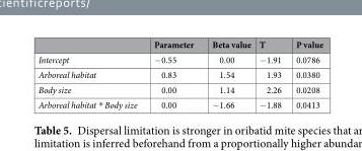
<table><thead><tr><td></td><td>Parameter</td><td>Beta value</td><td>T</td><td>P value</td></tr></thead><tbody><tr><td>Intercept</td><td>−0.55</td><td>0.00</td><td>−1.91</td><td>0.0786</td></tr><tr><td>Arboreal habitat</td><td>0.83</td><td>1.54</td><td>1.93</td><td>0.0380</td></tr><tr><td>Body size</td><td>0.00</td><td>1.14</td><td>2.26</td><td>0.0208</td></tr><tr><td>Arboreal habitat * Body size</td><td>0.00</td><td>−1.66</td><td>−1.88</td><td>0.0413</td></tr></tbody></table>